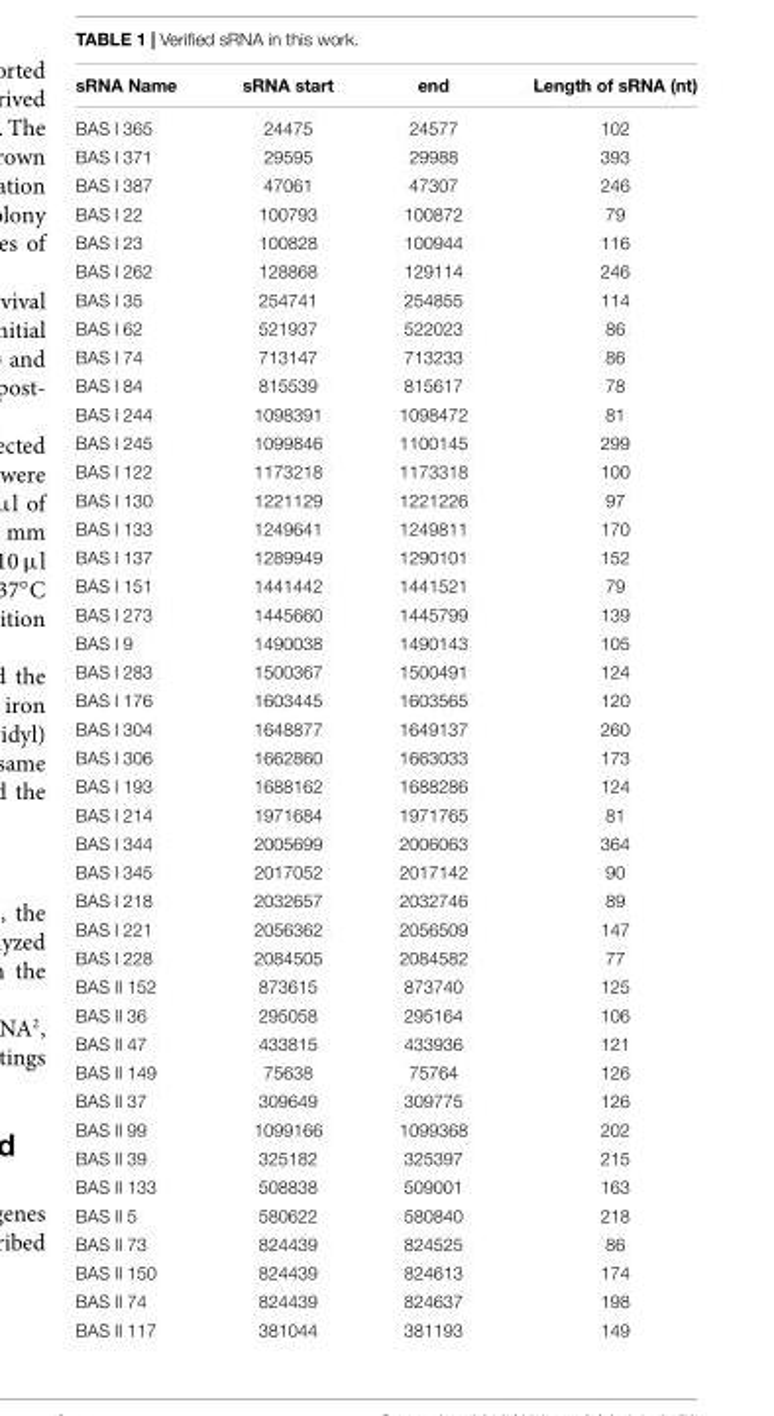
<table><thead><tr><td>sRNA Name</td><td>sRNA start</td><td>end</td><td>Length of sRNA (nt)</td></tr></thead><tbody><tr><td>BAS I 365</td><td>24475</td><td>24577</td><td>102</td></tr><tr><td>BAS I 371</td><td>29595</td><td>29988</td><td>393</td></tr><tr><td>BAS I 387</td><td>47061</td><td>47307</td><td>246</td></tr><tr><td>BAS I 22</td><td>100793</td><td>100872</td><td>79</td></tr><tr><td>BAS I 23</td><td>100828</td><td>100944</td><td>116</td></tr><tr><td>BAS I 262</td><td>128868</td><td>129114</td><td>246</td></tr><tr><td>BAS I 35</td><td>254741</td><td>254855</td><td>114</td></tr><tr><td>BAS I 62</td><td>521937</td><td>522023</td><td>86</td></tr><tr><td>BAS I 74</td><td>713147</td><td>713233</td><td>86</td></tr><tr><td>BAS I 84</td><td>815539</td><td>815617</td><td>78</td></tr><tr><td>BAS I 244</td><td>1098391</td><td>1098472</td><td>81</td></tr><tr><td>BAS I 245</td><td>1099846</td><td>1100145</td><td>299</td></tr><tr><td>BAS I 122</td><td>1173218</td><td>1173318</td><td>100</td></tr><tr><td>BAS I 130</td><td>1221129</td><td>1221226</td><td>97</td></tr><tr><td>BAS I 133</td><td>1249641</td><td>1249811</td><td>170</td></tr><tr><td>BAS I 137</td><td>1289949</td><td>1290101</td><td>152</td></tr><tr><td>BAS I 151</td><td>1441442</td><td>1441521</td><td>79</td></tr><tr><td>BAS I 273</td><td>1445660</td><td>1445799</td><td>139</td></tr><tr><td>BAS I 9</td><td>1490038</td><td>1490143</td><td>105</td></tr><tr><td>BAS I 283</td><td>1500367</td><td>1500491</td><td>124</td></tr><tr><td>BAS I 176</td><td>1603445</td><td>1603565</td><td>120</td></tr><tr><td>BAS I 304</td><td>1648877</td><td>1649137</td><td>260</td></tr><tr><td>BAS I 306</td><td>1662860</td><td>1663033</td><td>173</td></tr><tr><td>BAS I 193</td><td>1688162</td><td>1688286</td><td>124</td></tr><tr><td>BAS I 214</td><td>1971684</td><td>1971765</td><td>81</td></tr><tr><td>BAS I 344</td><td>2005699</td><td>2006063</td><td>364</td></tr><tr><td>BAS I 345</td><td>2017052</td><td>2017142</td><td>90</td></tr><tr><td>BAS I 218</td><td>2032657</td><td>2032746</td><td>89</td></tr><tr><td>BAS I 221</td><td>2056362</td><td>2056509</td><td>147</td></tr><tr><td>BAS I 228</td><td>2084505</td><td>2084582</td><td>77</td></tr><tr><td>BAS II 152</td><td>873615</td><td>873740</td><td>125</td></tr><tr><td>BAS II 36</td><td>295058</td><td>295164</td><td>106</td></tr><tr><td>BAS II 47</td><td>433815</td><td>433936</td><td>121</td></tr><tr><td>BAS II 149</td><td>75638</td><td>75764</td><td>126</td></tr><tr><td>BAS II 37</td><td>309649</td><td>309775</td><td>126</td></tr><tr><td>BAS II 99</td><td>1099166</td><td>1099368</td><td>202</td></tr><tr><td>BAS II 39</td><td>325182</td><td>325397</td><td>215</td></tr><tr><td>BAS II 133</td><td>508838</td><td>509001</td><td>163</td></tr><tr><td>BAS II 5</td><td>580622</td><td>580840</td><td>218</td></tr><tr><td>BAS II 73</td><td>824439</td><td>824525</td><td>86</td></tr><tr><td>BAS II 150</td><td>824439</td><td>824613</td><td>174</td></tr><tr><td>BAS II 74</td><td>824439</td><td>824637</td><td>198</td></tr><tr><td>BAS II 117</td><td>381044</td><td>381193</td><td>149</td></tr></tbody></table>